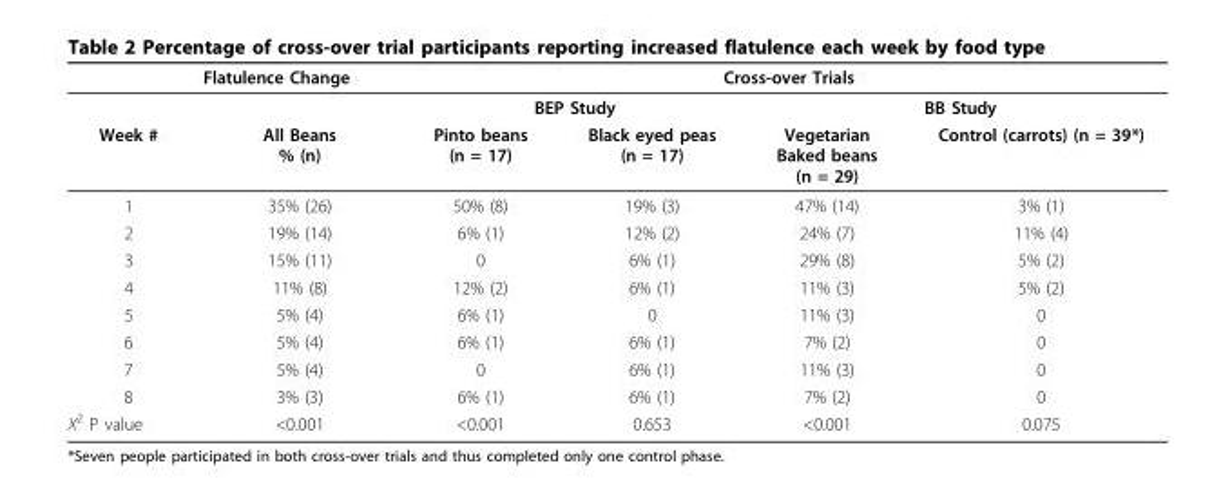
<table><thead><tr><td rowspan="3">Week #</td><td rowspan="3">Flatulence Change All Beans % (n)</td><td colspan="4">Cross-over Trials</td></tr><tr><td colspan="2">BEP Study</td><td colspan="2">BB Study</td></tr><tr><td>Pinto beans (n = 17)</td><td>Black eyed peas (n = 17)</td><td>Vegetarian Baked beans (n = 29)</td><td>Control (carrots) (n = 39*)</td></tr></thead><tbody><tr><td>1</td><td>35% (26)</td><td>50% (8)</td><td>19% (3)</td><td>47% (14)</td><td>3% (1)</td></tr><tr><td>2</td><td>19% (14)</td><td>6% (1)</td><td>12% (2)</td><td>24% (7)</td><td>11% (4)</td></tr><tr><td>3</td><td>15% (11)</td><td>0</td><td>6% (1)</td><td>29% (8)</td><td>5% (2)</td></tr><tr><td>4</td><td>11% (8)</td><td>12% (2)</td><td>6% (1)</td><td>11% (3)</td><td>5% (2)</td></tr><tr><td>5</td><td>5% (4)</td><td>6% (1)</td><td>0</td><td>11% (3)</td><td>0</td></tr><tr><td>6</td><td>5% (4)</td><td>6% (1)</td><td>6% (1)</td><td>7% (2)</td><td>0</td></tr><tr><td>7</td><td>5% (4)</td><td>0</td><td>6% (1)</td><td>11% (3)</td><td>0</td></tr><tr><td>8</td><td>3% (3)</td><td>6% (1)</td><td>6% (1)</td><td>7% (2)</td><td>0</td></tr><tr><td>X<sup>2</sup> P value</td><td>&lt;0.001</td><td>&lt;0.001</td><td>0.653</td><td>&lt;0.001</td><td>0.075</td></tr></tbody></table>